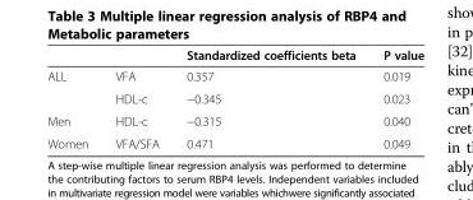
<table><thead><tr><td></td><td></td><td>Standardized coefficients beta</td><td>P value</td></tr></thead><tbody><tr><td rowspan="2">ALL</td><td>VFA</td><td>0.357</td><td>0.019</td></tr><tr><td>HDL-c</td><td>−0.345</td><td>0.023</td></tr><tr><td>Men</td><td>HDL-c</td><td>−0.315</td><td>0.040</td></tr><tr><td>Women</td><td>VFA/SFA</td><td>0.471</td><td>0.049</td></tr></tbody></table>